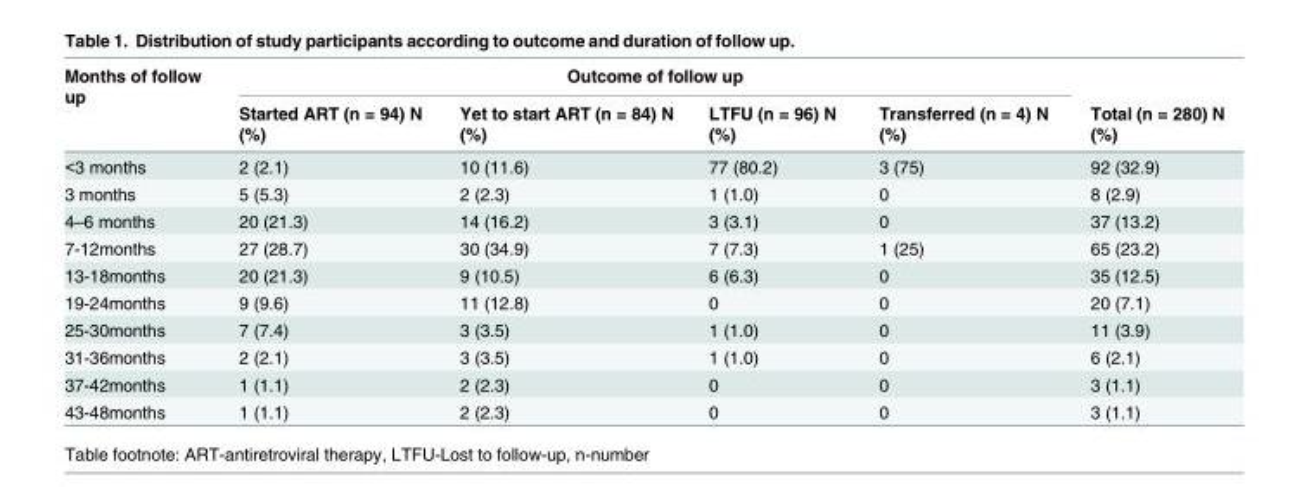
<table><thead><tr><td rowspan="2">Months of follow up</td><td colspan="4">Outcome of follow up</td><td rowspan="2">Total (n = 280) N (%)</td></tr><tr><td>Started ART (n = 94) N (%)</td><td>Yet to start ART (n = 84) N (%)</td><td>LTFU (n = 96) N (%)</td><td>Transferred (n = 4) N (%)</td></tr></thead><tbody><tr><td>&lt;3 months</td><td>2 (2.1)</td><td>10 (11.6)</td><td>77 (80.2)</td><td>3 (75)</td><td>92 (32.9)</td></tr><tr><td>3 months</td><td>5 (5.3)</td><td>2 (2.3)</td><td>1 (1.0)</td><td>0</td><td>8 (2.9)</td></tr><tr><td>4–6 months</td><td>20 (21.3)</td><td>14 (16.2)</td><td>3 (3.1)</td><td>0</td><td>37 (13.2)</td></tr><tr><td>7-12months</td><td>27 (28.7)</td><td>30 (34.9)</td><td>7 (7.3)</td><td>1 (25)</td><td>65 (23.2)</td></tr><tr><td>13-18months</td><td>20 (21.3)</td><td>9 (10.5)</td><td>6 (6.3)</td><td>0</td><td>35 (12.5)</td></tr><tr><td>19-24months</td><td>9 (9.6)</td><td>11 (12.8)</td><td>0</td><td>0</td><td>20 (7.1)</td></tr><tr><td>25-30months</td><td>7 (7.4)</td><td>3 (3.5)</td><td>1 (1.0)</td><td>0</td><td>11 (3.9)</td></tr><tr><td>31-36months</td><td>2 (2.1)</td><td>3 (3.5)</td><td>1 (1.0)</td><td>0</td><td>6 (2.1)</td></tr><tr><td>37-42months</td><td>1 (1.1)</td><td>2 (2.3)</td><td>0</td><td>0</td><td>3 (1.1)</td></tr><tr><td>43-48months</td><td>1 (1.1)</td><td>2 (2.3)</td><td>0</td><td>0</td><td>3 (1.1)</td></tr></tbody></table>